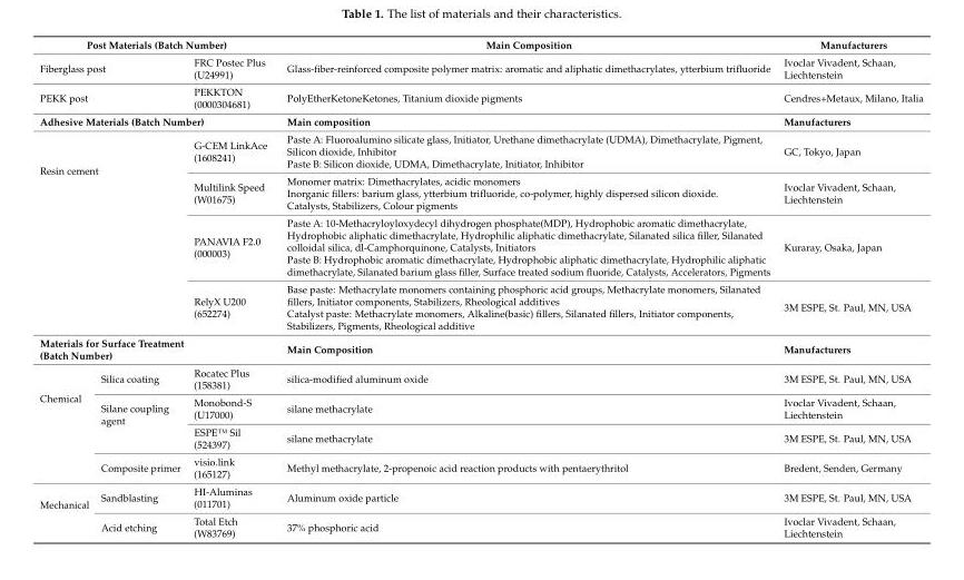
<table><thead><tr><td colspan="3">Post Materials (Batch Number)</td><td>Main Composition</td><td>Manufacturers</td></tr></thead><tbody><tr><td colspan="2">Fiberglass post</td><td>FRC Postec Plus (U24991)</td><td>Glass-fiber-reinforced composite polymer matrix: aromatic and aliphatic dimethacrylates, ytterbium trifluoride</td><td>Ivoclar Vivadent, Schaan, Liechtenstein</td></tr><tr><td colspan="2">PEKK post</td><td>PEKKTON (0000304681)</td><td>PolyEtherKetoneKetones, Titanium dioxide pigments</td><td>Cendres+Metaux, Milano, Italia</td></tr><tr><td colspan="3">Adhesive Materials (Batch Number)</td><td>Main composition</td><td>Manufacturers</td></tr><tr><td rowspan="4" colspan="2">Resin cement</td><td>G-CEM LinkAce (1608241)</td><td>Paste A: Fluoroalumino silicate glass, Initiator, Urethane dimethacrylate (UDMA), Dimethacrylate, Pigment, Silicon dioxide, Inhibitor Paste B: Silicon dioxide, UDMA, Dimethacrylate, Initiator, Inhibitor</td><td>GC, Tokyo, Japan</td></tr><tr><td>Multilink Speed (W01675)</td><td>Monomer matrix: Dimethacrylates, acidic monomers Inorganic fillers: barium glass, ytterbium trifluoride, co-polymer, highly dispersed silicon dioxide. Catalysts, Stabilizers, Colour pigments</td><td>Ivoclar Vivadent, Schaan, Liechtenstein</td></tr><tr><td>PANAVIA F2.0 (000003)</td><td>Paste A: 10-Methacryloyloxydecyl dihydrogen phosphate(MDP), Hydrophobic aromatic dimethacrylate, Hydrophobic aliphatic dimethacrylate, Hydrophilic aliphatic dimethacrylate, Silanated silica filler, Silanated colloidal silica, dl-Camphorquinone, Catalysts, Initiators Paste B: Hydrophobic aromatic dimethacrylate, Hydrophobic aliphatic dimethacrylate, Hydrophilic aliphatic dimethacrylate, Silanated barium glass filler, Surface treated sodium fluoride, Catalysts, Accelerators, Pigments</td><td>Kuraray, Osaka, Japan</td></tr><tr><td>RelyX U200 (652274)</td><td>Base paste: Methacrylate monomers containing phosphoric acid groups, Methacrylate monomers, Silanated fillers, Initiator components, Stabilizers, Rheological additives Catalyst paste: Methacrylate monomers, Alkaline(basic) fillers, Silanated fillers, Initiator components, Stabilizers, Pigments, Rheological additive</td><td>3M ESPE, St. Paul, MN, USA</td></tr><tr><td colspan="3">Materials for Surface Treatment (Batch Number)</td><td>Main Composition</td><td>Manufacturers</td></tr><tr><td rowspan="4">Chemical</td><td>Silica coating</td><td>Rocatec Plus (158381)</td><td>silica-modified aluminum oxide</td><td>3M ESPE, St. Paul, MN, USA</td></tr><tr><td rowspan="2">Silane coupling agent</td><td>Monobond-S (U17000)</td><td>silane methacrylate</td><td>Ivoclar Vivadent, Schaan, Liechtenstein</td></tr><tr><td>ESPE™ Sil (524397)</td><td>silane methacrylate</td><td>3M ESPE, St. Paul, MN, USA</td></tr><tr><td>Composite primer</td><td>visio.link (165127)</td><td>Methyl methacrylate, 2-propenoic acid reaction products with pentaerythritol</td><td>Bredent, Senden, Germany</td></tr><tr><td rowspan="2">Mechanical</td><td>Sandblasting</td><td>HI-Aluminas (011701)</td><td>Aluminum oxide particle</td><td>3M ESPE, St. Paul, MN, USA</td></tr><tr><td>Acid etching</td><td>Total Etch (W83769)</td><td>37% phosphoric acid</td><td>Ivoclar Vivadent, Schaan, Liechtenstein</td></tr></tbody></table>